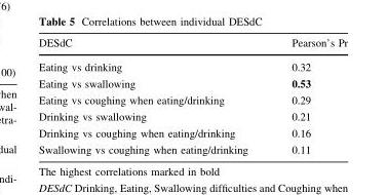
<table><thead><tr><td>DESdC</td><td>Pearson’s Pr</td></tr></thead><tbody><tr><td>Eating vs drinking</td><td>0.32</td></tr><tr><td>Eating vs swallowing</td><td>0.53</td></tr><tr><td>Eating vs coughing when eating/drinking</td><td>0.29</td></tr><tr><td>Drinking vs swallowing</td><td>0.21</td></tr><tr><td>Drinking vs coughing when eating/drinking</td><td>0.16</td></tr><tr><td>Swallowing vs coughing when eating/drinking</td><td>0.11</td></tr></tbody></table>